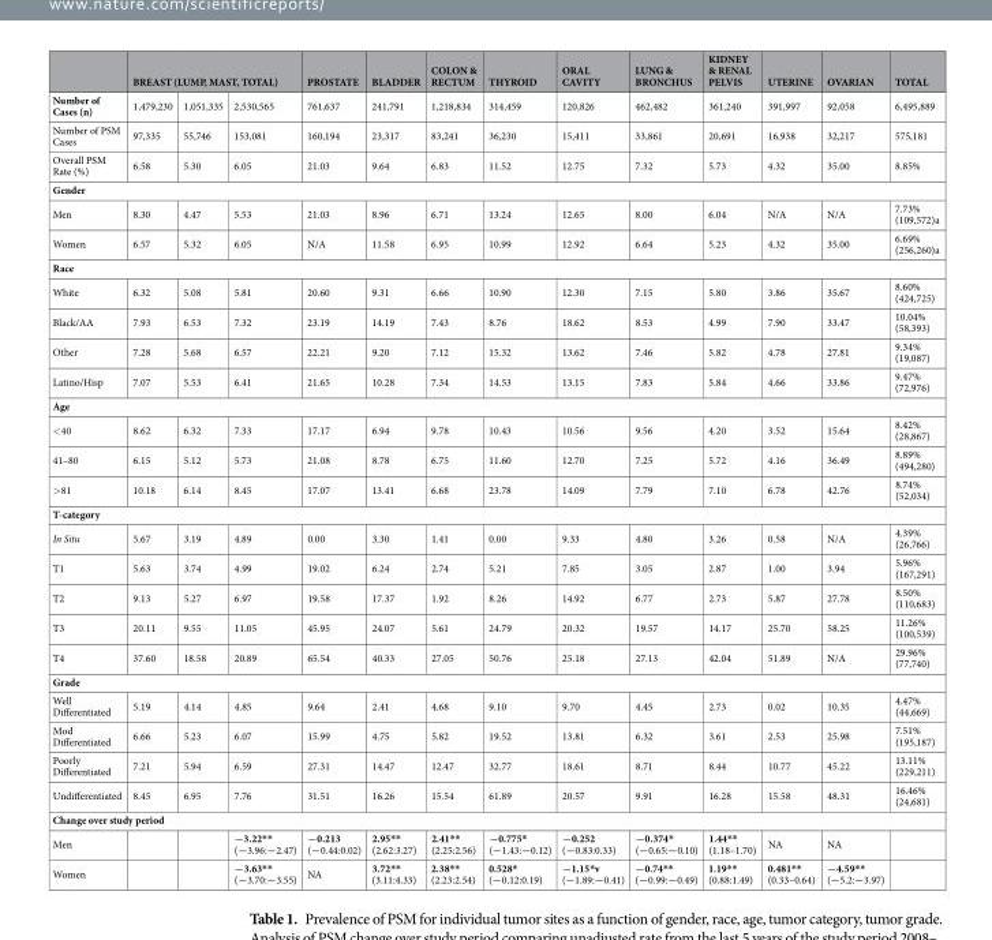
<table><thead><tr><td rowspan="2">Number of Cases (n)</td><td colspan="3">BREAST (LUMP, MAST, TOTAL)</td><td rowspan="2">PROSTATE 761,637</td><td rowspan="2">BLADDER 241,791</td><td rowspan="2">COLON &amp; RECTUM 1,218,834</td><td rowspan="2">THYROID 314,459</td><td rowspan="2">ORAL CAVITY 120,826</td><td rowspan="2">LUNG &amp; BRONCHUS 462,482</td><td rowspan="2">KIDNEY &amp; RENAL PELVIS 361,240</td><td rowspan="2">UTERINE 391,997</td><td rowspan="2">OVARIAN 92,058</td><td rowspan="2">TOTAL 6,495,889</td></tr><tr><td>1,479,230</td><td>1,051,335</td><td>2,530,565</td></tr></thead><tbody><tr><td>Number of PSM Cases</td><td>97,335</td><td>55,746</td><td>153,081</td><td>160,194</td><td>23,317</td><td>83,241</td><td>36,230</td><td>15,411</td><td>33,861</td><td>20,691</td><td>16,938</td><td>32,217</td><td>575,181</td></tr><tr><td>Overall PSM Rate (%)</td><td>6.58</td><td>5.30</td><td>6.05</td><td>21.03</td><td>9.64</td><td>6.83</td><td>11.52</td><td>12.75</td><td>7.32</td><td>5.73</td><td>4.32</td><td>35.00</td><td>8.85%</td></tr><tr><td colspan="14">Gender</td></tr><tr><td>Men</td><td>8.30</td><td>4.47</td><td>5.53</td><td>21.03</td><td>8.96</td><td>6.71</td><td>13.24</td><td>12.65</td><td>8.00</td><td>6.04</td><td>N/A</td><td>N/A</td><td>7.73% (109,572)a</td></tr><tr><td>Women</td><td>6.57</td><td>5.32</td><td>6.05</td><td>N/A</td><td>11.58</td><td>6.95</td><td>10.99</td><td>12.92</td><td>6.64</td><td>5.23</td><td>4.32</td><td>35.00</td><td>6.69% (256,260)a</td></tr><tr><td colspan="14">Race</td></tr><tr><td>White</td><td>6.32</td><td>5.08</td><td>5.81</td><td>20.60</td><td>9.31</td><td>6.66</td><td>10.90</td><td>12.30</td><td>7.15</td><td>5.80</td><td>3.86</td><td>35.67</td><td>8.60% (424,725)</td></tr><tr><td>Black/AA</td><td>7.93</td><td>6.53</td><td>7.32</td><td>23.19</td><td>14.19</td><td>7.43</td><td>8.76</td><td>18.62</td><td>8.53</td><td>4.99</td><td>7.90</td><td>33.47</td><td>10.04% (58,393)</td></tr><tr><td>Other</td><td>7.28</td><td>5.68</td><td>6.57</td><td>22.21</td><td>9.20</td><td>7.12</td><td>15.32</td><td>13.62</td><td>7.46</td><td>5.82</td><td>4.78</td><td>27.81</td><td>9.34% (19,087)</td></tr><tr><td>Latino/Hisp</td><td>7.07</td><td>5.53</td><td>6.41</td><td>21.65</td><td>10.28</td><td>7.34</td><td>14.53</td><td>13.15</td><td>7.83</td><td>5.84</td><td>4.66</td><td>33.86</td><td>9.47% (72,976)</td></tr><tr><td colspan="14">Age</td></tr><tr><td>&lt;40</td><td>8.62</td><td>6.32</td><td>7.33</td><td>17.17</td><td>6.94</td><td>9.78</td><td>10.43</td><td>10.56</td><td>9.56</td><td>4.20</td><td>3.52</td><td>15.64</td><td>8.42% (28,867)</td></tr><tr><td>41–80</td><td>6.15</td><td>5.12</td><td>5.73</td><td>21.08</td><td>8.78</td><td>6.75</td><td>11.60</td><td>12.70</td><td>7.25</td><td>5.72</td><td>4.16</td><td>36.49</td><td>8.89% (494,280)</td></tr><tr><td>&gt;81</td><td>10.18</td><td>6.14</td><td>8.45</td><td>17.07</td><td>13.41</td><td>6.68</td><td>23.78</td><td>14.09</td><td>7.79</td><td>7.10</td><td>6.78</td><td>42.76</td><td>8.74% (52,034)</td></tr><tr><td colspan="14">T-category</td></tr><tr><td>In Situ</td><td>5.67</td><td>3.19</td><td>4.89</td><td>0.00</td><td>3.30</td><td>1.41</td><td>0.00</td><td>9.33</td><td>4.80</td><td>3.26</td><td>0.58</td><td>N/A</td><td>4.39% (26,766)</td></tr><tr><td>T1</td><td>5.63</td><td>3.74</td><td>4.99</td><td>19.02</td><td>6.24</td><td>2.74</td><td>5.21</td><td>7.85</td><td>3.05</td><td>2.87</td><td>1.00</td><td>3.94</td><td>5.96% (167,291)</td></tr><tr><td>T2</td><td>9.13</td><td>5.27</td><td>6.97</td><td>19.58</td><td>17.37</td><td>1.92</td><td>8.26</td><td>14.92</td><td>6.77</td><td>2.73</td><td>5.87</td><td>27.78</td><td>8.50% (110,683)</td></tr><tr><td>T3</td><td>20.11</td><td>9.55</td><td>11.05</td><td>45.95</td><td>24.07</td><td>5.61</td><td>24.79</td><td>20.32</td><td>19.57</td><td>14.17</td><td>25.70</td><td>58.25</td><td>11.26% (100,539)</td></tr><tr><td>T4</td><td>37.60</td><td>18.58</td><td>20.89</td><td>65.54</td><td>40.33</td><td>27.05</td><td>50.76</td><td>25.18</td><td>27.13</td><td>42.04</td><td>51.89</td><td>N/A</td><td>29.96% (77,740)</td></tr><tr><td colspan="14">Grade</td></tr><tr><td>Well Differentiated</td><td>5.19</td><td>4.14</td><td>4.85</td><td>9.64</td><td>2.41</td><td>4.68</td><td>9.10</td><td>9.70</td><td>4.45</td><td>2.73</td><td>0.02</td><td>10.35</td><td>4.47% (44,669)</td></tr><tr><td>Mod Differentiated</td><td>6.66</td><td>5.23</td><td>6.07</td><td>15.99</td><td>4.75</td><td>5.82</td><td>19.52</td><td>13.81</td><td>6.32</td><td>3.61</td><td>2.53</td><td>25.98</td><td>7.51% (195,187)</td></tr><tr><td>Poorly Differentiated</td><td>7.21</td><td>5.94</td><td>6.59</td><td>27.31</td><td>14.47</td><td>12.47</td><td>32.77</td><td>18.61</td><td>8.71</td><td>8.44</td><td>10.77</td><td>45.22</td><td>13.11% (229,211)</td></tr><tr><td>Undifferentiated</td><td>8.45</td><td>6.95</td><td>7.76</td><td>31.51</td><td>16.26</td><td>15.54</td><td>61.89</td><td>20.57</td><td>9.91</td><td>16.28</td><td>15.58</td><td>48.31</td><td>16.46% (24,681)</td></tr><tr><td colspan="14">Change over study period</td></tr><tr><td>Men</td><td></td><td></td><td>−3.22** (−3.96:−2.47)</td><td>−0.213 (−0.44:0.02)</td><td>2.95** (2.62:3.27)</td><td>2.41** (2.25:2.56)</td><td>−0.775* (−1.43:−0.12)</td><td>−0.252 (−0.83:0.33)</td><td>−0.374* (−0.65:−0.10)</td><td>1.44** (1.18–1.70)</td><td>NA</td><td>NA</td><td></td></tr><tr><td>Women</td><td></td><td></td><td>−3.63** (−3.70:−3.55)</td><td>NA</td><td>3.72** (3.11:4.33)</td><td>2.38** (2.23:2.54)</td><td>0.528* (−0.12:0.19)</td><td>−1.15*v (−1.89:−0.41)</td><td>−0.74** (−0.99:−0.49)</td><td>1.19** (0.88:1.49)</td><td>0.481** (0.33–0.64)</td><td>−4.59** (−5.2:−3.97)</td><td></td></tr></tbody></table>